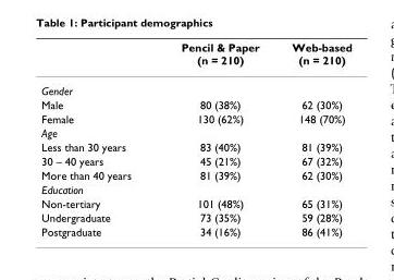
<table><thead><tr><td></td><td>Pencil &amp; Paper (n = 210)</td><td>Web-based (n = 210)</td></tr></thead><tbody><tr><td colspan="3">Gender</td></tr><tr><td>Male</td><td>80 (38%)</td><td>62 (30%)</td></tr><tr><td>Female</td><td>130 (62%)</td><td>148 (70%)</td></tr><tr><td colspan="3">Age</td></tr><tr><td>Less than 30 years</td><td>83 (40%)</td><td>81 (39%)</td></tr><tr><td>30 – 40 years</td><td>45 (21%)</td><td>67 (32%)</td></tr><tr><td>More than 40 years</td><td>81 (39%)</td><td>62 (30%)</td></tr><tr><td colspan="3">Education</td></tr><tr><td>Non-tertiary</td><td>101 (48%)</td><td>65 (31%)</td></tr><tr><td>Undergraduate</td><td>73 (35%)</td><td>59 (28%)</td></tr><tr><td>Postgraduate</td><td>34 (16%)</td><td>86 (41%)</td></tr></tbody></table>